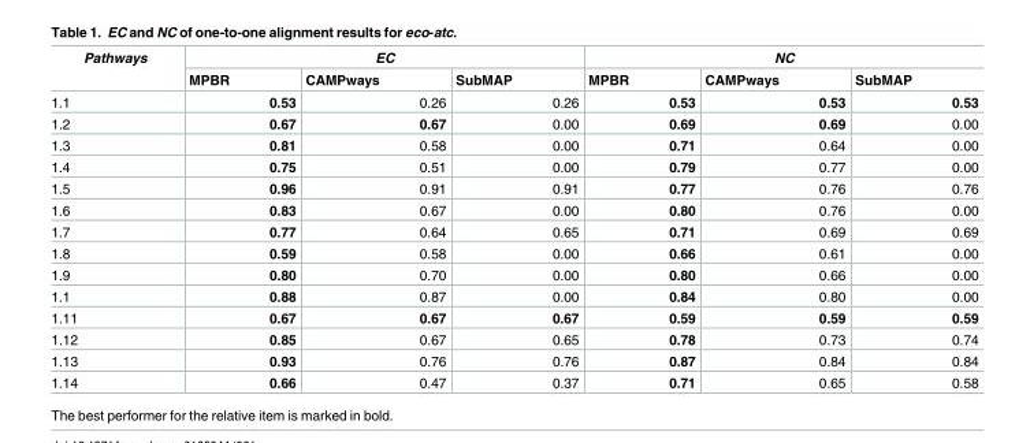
<table><thead><tr><td rowspan="2">Pathways</td><td colspan="3">EC</td><td colspan="3">NC</td></tr><tr><td>MPBR</td><td>CAMPways</td><td>SubMAP</td><td>MPBR</td><td>CAMPways</td><td>SubMAP</td></tr></thead><tbody><tr><td>1.1</td><td>0.53</td><td>0.26</td><td>0.26</td><td>0.53</td><td>0.53</td><td>0.53</td></tr><tr><td>1.2</td><td>0.67</td><td>0.67</td><td>0.00</td><td>0.69</td><td>0.69</td><td>0.00</td></tr><tr><td>1.3</td><td>0.81</td><td>0.58</td><td>0.00</td><td>0.71</td><td>0.64</td><td>0.00</td></tr><tr><td>1.4</td><td>0.75</td><td>0.51</td><td>0.00</td><td>0.79</td><td>0.77</td><td>0.00</td></tr><tr><td>1.5</td><td>0.96</td><td>0.91</td><td>0.91</td><td>0.77</td><td>0.76</td><td>0.76</td></tr><tr><td>1.6</td><td>0.83</td><td>0.67</td><td>0.00</td><td>0.80</td><td>0.76</td><td>0.00</td></tr><tr><td>1.7</td><td>0.77</td><td>0.64</td><td>0.65</td><td>0.71</td><td>0.69</td><td>0.69</td></tr><tr><td>1.8</td><td>0.59</td><td>0.58</td><td>0.00</td><td>0.66</td><td>0.61</td><td>0.00</td></tr><tr><td>1.9</td><td>0.80</td><td>0.70</td><td>0.00</td><td>0.80</td><td>0.66</td><td>0.00</td></tr><tr><td>1.1</td><td>0.88</td><td>0.87</td><td>0.00</td><td>0.84</td><td>0.80</td><td>0.00</td></tr><tr><td>1.11</td><td>0.67</td><td>0.67</td><td>0.67</td><td>0.59</td><td>0.59</td><td>0.59</td></tr><tr><td>1.12</td><td>0.85</td><td>0.67</td><td>0.65</td><td>0.78</td><td>0.73</td><td>0.74</td></tr><tr><td>1.13</td><td>0.93</td><td>0.76</td><td>0.76</td><td>0.87</td><td>0.84</td><td>0.84</td></tr><tr><td>1.14</td><td>0.66</td><td>0.47</td><td>0.37</td><td>0.71</td><td>0.65</td><td>0.58</td></tr></tbody></table>